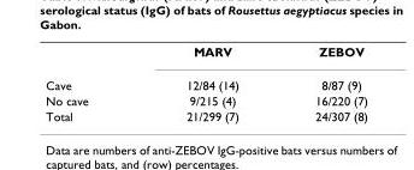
<table><thead><tr><td></td><td>MARV</td><td>ZEBOV</td></tr></thead><tbody><tr><td>Cave</td><td>12/84 (14)</td><td>8/87 (9)</td></tr><tr><td>No cave</td><td>9/215 (4)</td><td>16/220 (7)</td></tr><tr><td>Total</td><td>21/299 (7)</td><td>24/307 (8)</td></tr></tbody></table>